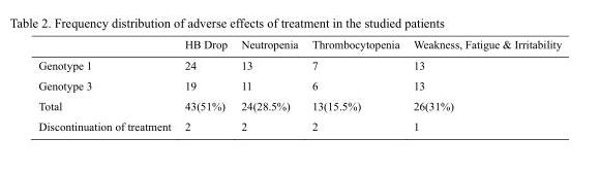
<table><thead><tr><td></td><td>HB Drop</td><td>Neutropenia</td><td>Thrombocytopenia</td><td>Weakness, Fatigue &amp; Irritability</td></tr></thead><tbody><tr><td>Genotype 1</td><td>24</td><td>13</td><td>7</td><td>13</td></tr><tr><td>Genotype 3</td><td>19</td><td>11</td><td>6</td><td>13</td></tr><tr><td>Total</td><td>43(51%)</td><td>24(28.5%)</td><td>13(15.5%)</td><td>26(31%)</td></tr><tr><td>Discontinuation of treatment</td><td>2</td><td>2</td><td>2</td><td>1</td></tr></tbody></table>